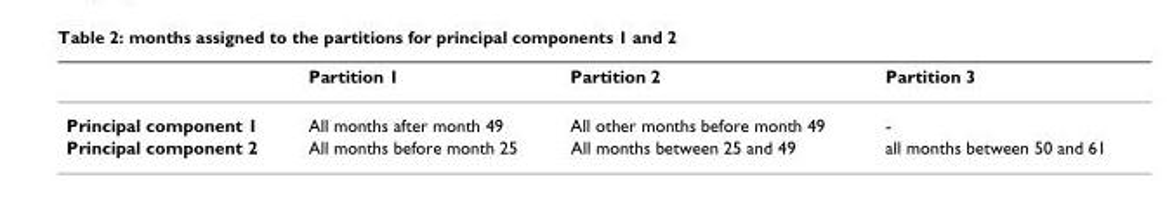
<table><thead><tr><td></td><td>Partition 1</td><td>Partition 2</td><td>Partition 3</td></tr></thead><tbody><tr><td>Principal component 1</td><td>All months after month 49</td><td>All other months before month 49</td><td>-</td></tr><tr><td>Principal component 2</td><td>All months before month 25</td><td>All months between 25 and 49</td><td>all months between 50 and 61</td></tr></tbody></table>